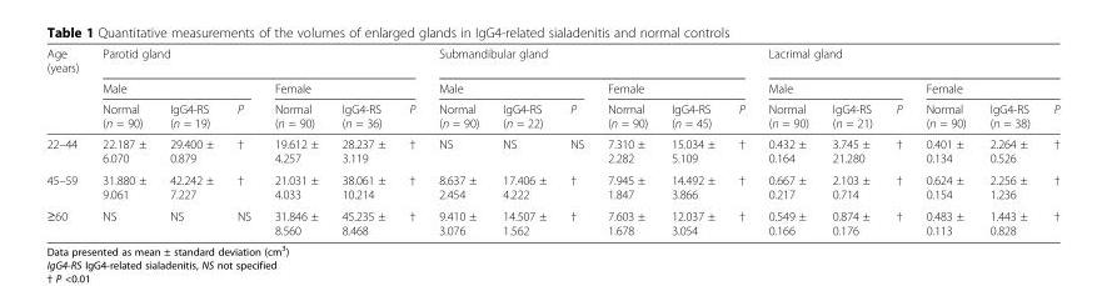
<table><thead><tr><td rowspan="3">Age (years)</td><td colspan="6">Parotid gland</td><td colspan="6">Submandibular gland</td><td colspan="6">Lacrimal gland</td></tr><tr><td colspan="3">Male</td><td colspan="3">Female</td><td colspan="3">Male</td><td colspan="3">Female</td><td colspan="3">Male</td><td colspan="3">Female</td></tr><tr><td>Normal (n = 90)</td><td>IgG4-RS (n = 19)</td><td>P</td><td>Normal (n = 90)</td><td>IgG4-RS (n = 36)</td><td>P</td><td>Normal (n = 90)</td><td>IgG4-RS (n = 22)</td><td>P</td><td>Normal (n = 90)</td><td>IgG4-RS (n = 45)</td><td>P</td><td>Normal (n = 90)</td><td>IgG4-RS (n = 21)</td><td>P</td><td>Normal (n = 90)</td><td>IgG4-RS (n = 38)</td><td>P</td></tr></thead><tbody><tr><td>22–44</td><td>22.187 ± 6.070</td><td>29.400 ± 0.879</td><td>†</td><td>19.612 ± 4.257</td><td>28.237 ± 3.119</td><td>†</td><td>NS</td><td>NS</td><td>NS</td><td>7.310 ± 2.282</td><td>15.034 ± 5.109</td><td>†</td><td>0.432 ± 0.164</td><td>3.745 ± 21.280</td><td>†</td><td>0.401 ± 0.134</td><td>2.264 ± 0.526</td><td>†</td></tr><tr><td>45–59</td><td>31.880 ± 9.061</td><td>42.242 ± 7.227</td><td>†</td><td>21.031 ± 4.033</td><td>38.061 ± 10.214</td><td>†</td><td>8.637 ± 2.454</td><td>17.406 ± 4.222</td><td>†</td><td>7.945 ± 1.847</td><td>14.492 ± 3.866</td><td>†</td><td>0.667 ± 0.217</td><td>2.103 ± 0.714</td><td>†</td><td>0.624 ± 0.154</td><td>2.256 ± 1.236</td><td>†</td></tr><tr><td>≥60</td><td>NS</td><td>NS</td><td>NS</td><td>31.846 ± 8.560</td><td>45.235 ± 8.468</td><td>†</td><td>9.410 ± 3.076</td><td>14.507 ± 1.562</td><td>†</td><td>7.603 ± 1.678</td><td>12.037 ± 3.054</td><td>†</td><td>0.549 ± 0.166</td><td>0.874 ± 0.176</td><td>†</td><td>0.483 ± 0.113</td><td>1.443 ± 0.828</td><td>†</td></tr></tbody></table>